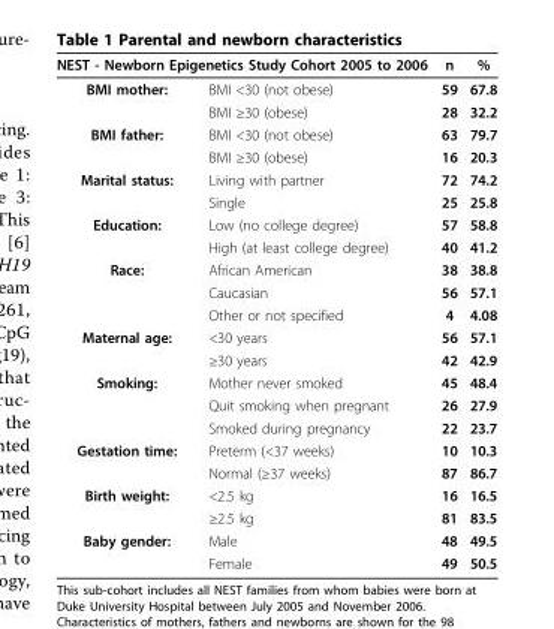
<table><thead><tr><td colspan="2">NEST - Newborn Epigenetics Study Cohort 2005 to 2006</td><td rowspan="2">n 59</td><td rowspan="2">% 67.8</td></tr><tr><td>BMI mother:</td><td>BMI &lt;30 (not obese)</td></tr></thead><tbody><tr><td></td><td>BMI ≥30 (obese)</td><td>28</td><td>32.2</td></tr><tr><td rowspan="2">BMI father:</td><td>BMI &lt;30 (not obese)</td><td>63</td><td>79.7</td></tr><tr><td>BMI ≥30 (obese)</td><td>16</td><td>20.3</td></tr><tr><td rowspan="2">Marital status:</td><td>Living with partner</td><td>72</td><td>74.2</td></tr><tr><td>Single</td><td>25</td><td>25.8</td></tr><tr><td rowspan="2">Education:</td><td>Low (no college degree)</td><td>57</td><td>58.8</td></tr><tr><td>High (at least college degree)</td><td>40</td><td>41.2</td></tr><tr><td rowspan="3">Race:</td><td>African American</td><td>38</td><td>38.8</td></tr><tr><td>Caucasian</td><td>56</td><td>57.1</td></tr><tr><td>Other or not specified</td><td>4</td><td>4.08</td></tr><tr><td rowspan="2">Maternal age:</td><td>&lt;30 years</td><td>56</td><td>57.1</td></tr><tr><td>≥30 years</td><td>42</td><td>42.9</td></tr><tr><td rowspan="3">Smoking:</td><td>Mother never smoked</td><td>45</td><td>48.4</td></tr><tr><td>Quit smoking when pregnant</td><td>26</td><td>27.9</td></tr><tr><td>Smoked during pregnancy</td><td>22</td><td>23.7</td></tr><tr><td rowspan="2">Gestation time:</td><td>Preterm (&lt;37 weeks)</td><td>10</td><td>10.3</td></tr><tr><td>Normal (≥37 weeks)</td><td>87</td><td>86.7</td></tr><tr><td rowspan="2">Birth weight:</td><td>&lt;2.5 kg</td><td>16</td><td>16.5</td></tr><tr><td>≥2.5 kg</td><td>81</td><td>83.5</td></tr><tr><td rowspan="2">Baby gender:</td><td>Male</td><td>48</td><td>49.5</td></tr><tr><td>Female</td><td>49</td><td>50.5</td></tr></tbody></table>